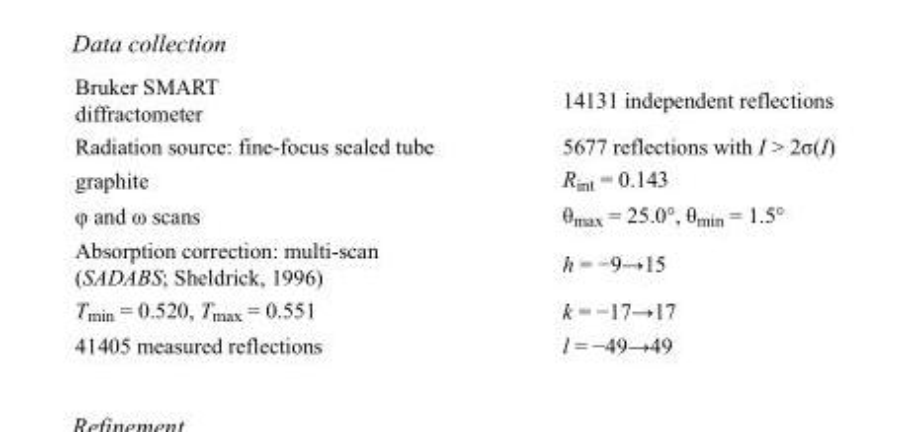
<table><tbody><tr><td>Bruker SMART diffractometer</td><td>14131 independent reflections</td></tr><tr><td>Radiation source: fine-focus sealed tube</td><td>5677 reflections with I &gt; 2σ(I)</td></tr><tr><td>graphite</td><td>R<sub>int</sub> = 0.143</td></tr><tr><td>φ and ω scans</td><td>θ<sub>max</sub> = 25.0°, θ<sub>min</sub> = 1.5°</td></tr><tr><td>Absorption correction: multi-scan (SADABS; Sheldrick, 1996)</td><td>h = −9→15</td></tr><tr><td>T<sub>min</sub> = 0.520, T<sub>max</sub> = 0.551</td><td>k = −17→17</td></tr><tr><td>41405 measured reflections</td><td>l = −49→49</td></tr></tbody></table>